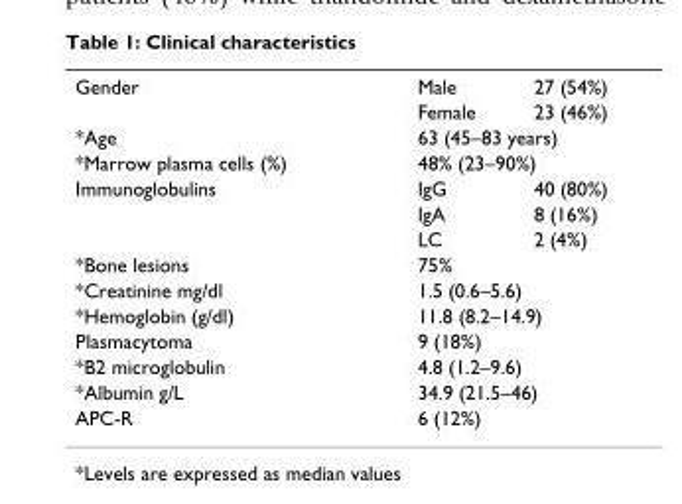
<table><tbody><tr><td rowspan="2">Gender</td><td>Male</td><td>27 (54%)</td></tr><tr><td>Female</td><td>23 (46%)</td></tr><tr><td>*Age</td><td colspan="2">63 (45–83 years)</td></tr><tr><td>*Marrow plasma cells (%)</td><td colspan="2">48% (23–90%)</td></tr><tr><td rowspan="3">Immunoglobulins</td><td>IgG</td><td>40 (80%)</td></tr><tr><td>IgA</td><td>8 (16%)</td></tr><tr><td>LC</td><td>2 (4%)</td></tr><tr><td>*Bone lesions</td><td colspan="2">75%</td></tr><tr><td>*Creatinine mg/dl</td><td colspan="2">1.5 (0.6–5.6)</td></tr><tr><td>*Hemoglobin (g/dl)</td><td colspan="2">11.8 (8.2–14.9)</td></tr><tr><td>Plasmacytoma</td><td colspan="2">9 (18%)</td></tr><tr><td>*B2 microglobulin</td><td colspan="2">4.8 (1.2–9.6)</td></tr><tr><td>*Albumin g/L</td><td colspan="2">34.9 (21.5–46)</td></tr><tr><td>APC-R</td><td colspan="2">6 (12%)</td></tr></tbody></table>